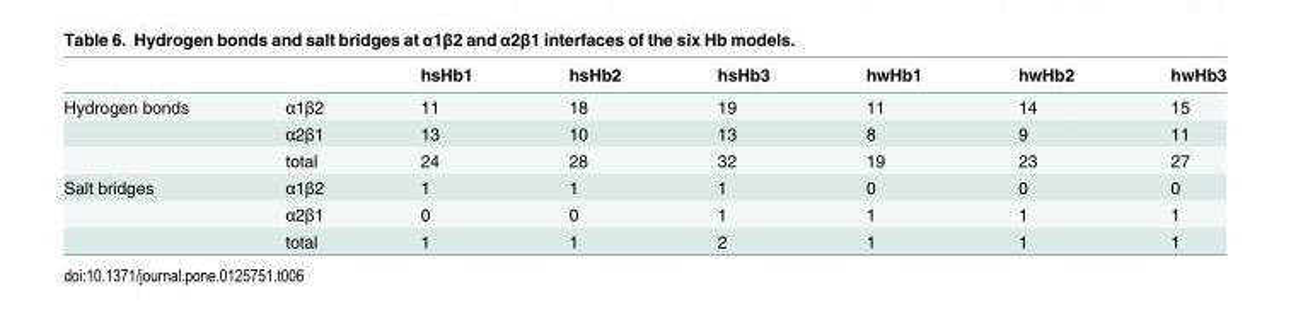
<table><thead><tr><td></td><td></td><td>hsHb1</td><td>hsHb2</td><td>hsHb3</td><td>hwHb1</td><td>hwHb2</td><td>hwHb3</td></tr></thead><tbody><tr><td rowspan="3">Hydrogen bonds</td><td>α1β2</td><td>11</td><td>18</td><td>19</td><td>11</td><td>14</td><td>15</td></tr><tr><td>α2β1</td><td>13</td><td>10</td><td>13</td><td>8</td><td>9</td><td>11</td></tr><tr><td>total</td><td>24</td><td>28</td><td>32</td><td>19</td><td>23</td><td>27</td></tr><tr><td rowspan="3">Salt bridges</td><td>α1β2</td><td>1</td><td>1</td><td>1</td><td>0</td><td>0</td><td>0</td></tr><tr><td>α2β1</td><td>0</td><td>0</td><td>1</td><td>1</td><td>1</td><td>1</td></tr><tr><td>total</td><td>1</td><td>1</td><td>2</td><td>1</td><td>1</td><td>1</td></tr></tbody></table>